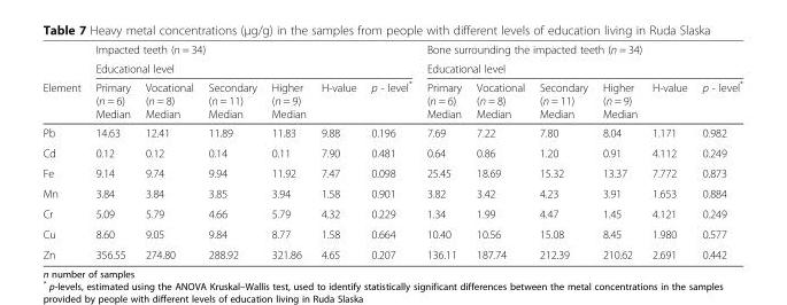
<table><thead><tr><td rowspan="3">Element</td><td rowspan="2" colspan="6">Impacted teeth (n = 34) Educational level</td><td rowspan="2" colspan="6">Bone surrounding the impacted teeth (n = 34) Educational level</td></tr><tr></tr><tr><td>Primary (n = 6) Median</td><td>Vocational (n = 8) Median</td><td>Secondary (n = 11) Median</td><td>Higher (n = 9) Median</td><td>H-value</td><td>p - level*</td><td>Primary (n = 6) Median</td><td>Vocational (n = 8) Median</td><td>Secondary (n = 11) Median</td><td>Higher (n = 9) Median</td><td>H-value</td><td>p - level*</td></tr></thead><tbody><tr><td>Pb</td><td>14.63</td><td>12.41</td><td>11.89</td><td>11.83</td><td>9.88</td><td>0.196</td><td>7.69</td><td>7.22</td><td>7.80</td><td>8.04</td><td>1.171</td><td>0.982</td></tr><tr><td>Cd</td><td>0.12</td><td>0.12</td><td>0.14</td><td>0.11</td><td>7.90</td><td>0.481</td><td>0.64</td><td>0.86</td><td>1.20</td><td>0.91</td><td>4.112</td><td>0.249</td></tr><tr><td>Fe</td><td>9.14</td><td>9.74</td><td>9.94</td><td>11.92</td><td>7.47</td><td>0.098</td><td>25.45</td><td>18.69</td><td>15.32</td><td>13.37</td><td>7.772</td><td>0.873</td></tr><tr><td>Mn</td><td>3.84</td><td>3.84</td><td>3.85</td><td>3.94</td><td>1.58</td><td>0.901</td><td>3.82</td><td>3.42</td><td>4.23</td><td>3.91</td><td>1.653</td><td>0.884</td></tr><tr><td>Cr</td><td>5.09</td><td>5.79</td><td>4.66</td><td>5.79</td><td>4.32</td><td>0.229</td><td>1.34</td><td>1.99</td><td>4.47</td><td>1.45</td><td>4.121</td><td>0.249</td></tr><tr><td>Cu</td><td>8.60</td><td>9.05</td><td>9.84</td><td>8.77</td><td>1.58</td><td>0.664</td><td>10.40</td><td>10.56</td><td>15.08</td><td>8.45</td><td>1.980</td><td>0.577</td></tr><tr><td>Zn</td><td>356.55</td><td>274.80</td><td>288.92</td><td>321.86</td><td>4.65</td><td>0.207</td><td>136.11</td><td>187.74</td><td>212.39</td><td>210.62</td><td>2.691</td><td>0.442</td></tr></tbody></table>